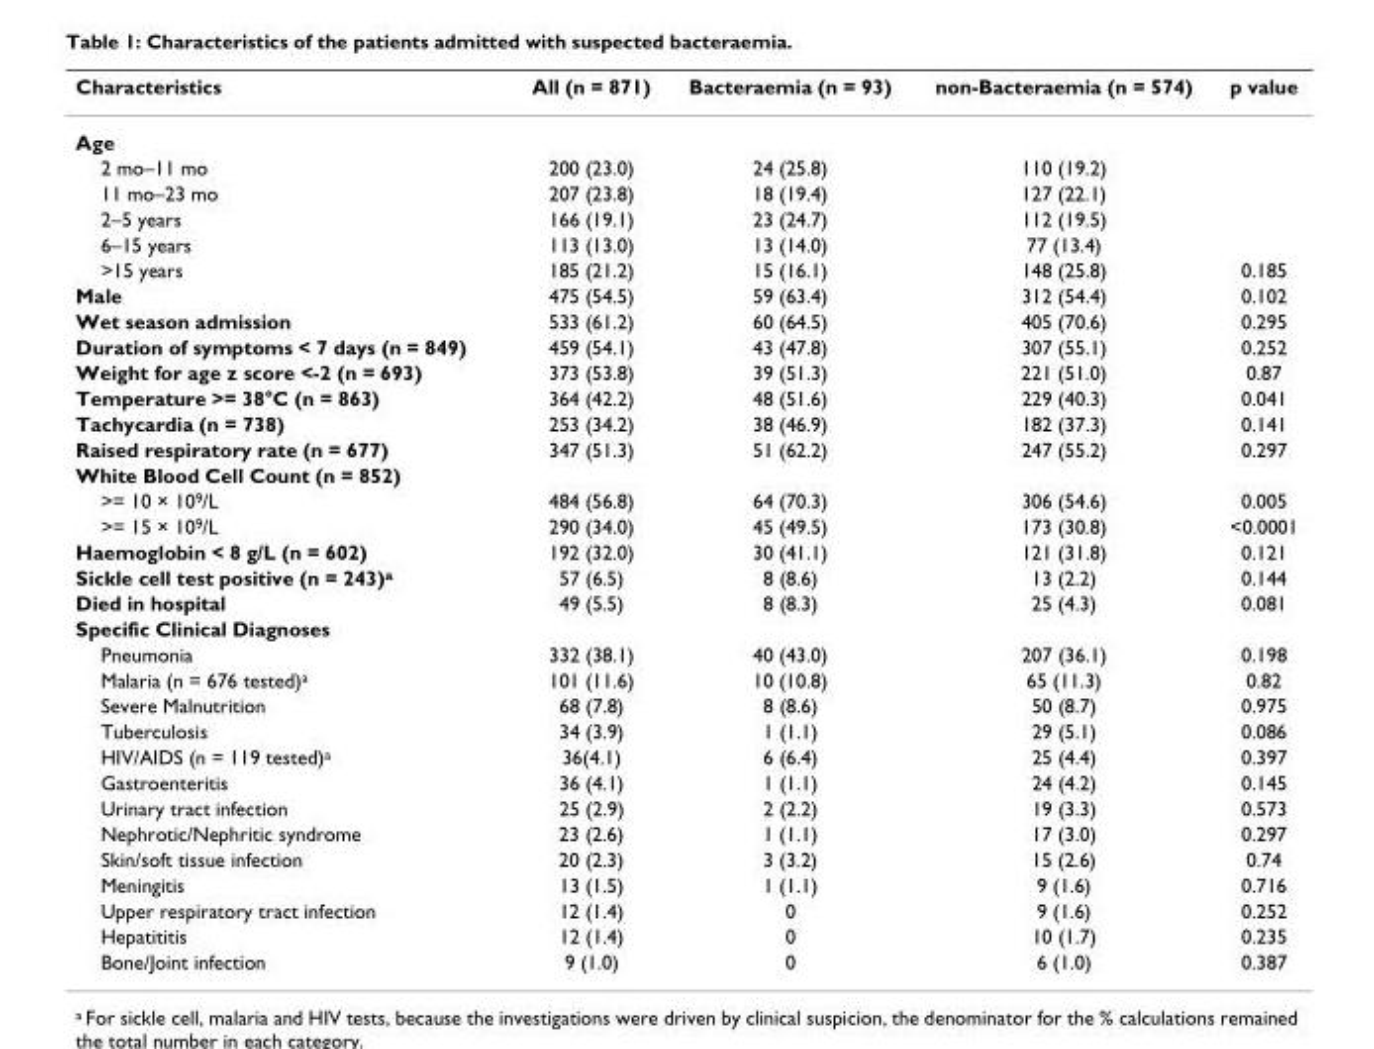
<table><thead><tr><td>Characteristics</td><td>All (n = 871)</td><td>Bacteraemia (n = 93)</td><td>non-Bacteraemia (n = 574)</td><td>p value</td></tr></thead><tbody><tr><td colspan="5">Age</td></tr><tr><td>2 mo–11 mo</td><td>200 (23.0)</td><td>24 (25.8)</td><td>110 (19.2)</td><td></td></tr><tr><td>11 mo–23 mo</td><td>207 (23.8)</td><td>18 (19.4)</td><td>127 (22.1)</td><td></td></tr><tr><td>2–5 years</td><td>166 (19.1)</td><td>23 (24.7)</td><td>112 (19.5)</td><td></td></tr><tr><td>6–15 years</td><td>113 (13.0)</td><td>13 (14.0)</td><td>77 (13.4)</td><td></td></tr><tr><td>&gt;15 years</td><td>185 (21.2)</td><td>15 (16.1)</td><td>148 (25.8)</td><td>0.185</td></tr><tr><td>Male</td><td>475 (54.5)</td><td>59 (63.4)</td><td>312 (54.4)</td><td>0.102</td></tr><tr><td>Wet season admission</td><td>533 (61.2)</td><td>60 (64.5)</td><td>405 (70.6)</td><td>0.295</td></tr><tr><td>Duration of symptoms &lt; 7 days (n = 849)</td><td>459 (54.1)</td><td>43 (47.8)</td><td>307 (55.1)</td><td>0.252</td></tr><tr><td>Weight for age z score &lt;-2 (n = 693)</td><td>373 (53.8)</td><td>39 (51.3)</td><td>221 (51.0)</td><td>0.87</td></tr><tr><td>Temperature &gt;= 38°C (n = 863)</td><td>364 (42.2)</td><td>48 (51.6)</td><td>229 (40.3)</td><td>0.041</td></tr><tr><td>Tachycardia (n = 738)</td><td>253 (34.2)</td><td>38 (46.9)</td><td>182 (37.3)</td><td>0.141</td></tr><tr><td>Raised respiratory rate (n = 677)</td><td>347 (51.3)</td><td>51 (62.2)</td><td>247 (55.2)</td><td>0.297</td></tr><tr><td colspan="5">White Blood Cell Count (n = 852)</td></tr><tr><td>&gt;= 10 × 10<sup>9</sup>/L</td><td>484 (56.8)</td><td>64 (70.3)</td><td>306 (54.6)</td><td>0.005</td></tr><tr><td>&gt;= 15 × 10<sup>9</sup>/L</td><td>290 (34.0)</td><td>45 (49.5)</td><td>173 (30.8)</td><td>&lt;0.0001</td></tr><tr><td>Haemoglobin &lt; 8 g/L (n = 602)</td><td>192 (32.0)</td><td>30 (41.1)</td><td>121 (31.8)</td><td>0.121</td></tr><tr><td>Sickle cell test positive (n = 243)<sup>a</sup></td><td>57 (6.5)</td><td>8 (8.6)</td><td>13 (2.2)</td><td>0.144</td></tr><tr><td>Died in hospital</td><td>49 (5.5)</td><td>8 (8.3)</td><td>25 (4.3)</td><td>0.081</td></tr><tr><td colspan="5">Specific Clinical Diagnoses</td></tr><tr><td>Pneumonia</td><td>332 (38.1)</td><td>40 (43.0)</td><td>207 (36.1)</td><td>0.198</td></tr><tr><td>Malaria (n = 676 tested)<sup>a</sup></td><td>101 (11.6)</td><td>10 (10.8)</td><td>65 (11.3)</td><td>0.82</td></tr><tr><td>Severe Malnutrition</td><td>68 (7.8)</td><td>8 (8.6)</td><td>50 (8.7)</td><td>0.975</td></tr><tr><td>Tuberculosis</td><td>34 (3.9)</td><td>1 (1.1)</td><td>29 (5.1)</td><td>0.086</td></tr><tr><td>HIV/AIDS (n = 119 tested)<sup>a</sup></td><td>36(4.1)</td><td>6 (6.4)</td><td>25 (4.4)</td><td>0.397</td></tr><tr><td>Gastroenteritis</td><td>36 (4.1)</td><td>1 (1.1)</td><td>24 (4.2)</td><td>0.145</td></tr><tr><td>Urinary tract infection</td><td>25 (2.9)</td><td>2 (2.2)</td><td>19 (3.3)</td><td>0.573</td></tr><tr><td>Nephrotic/Nephritic syndrome</td><td>23 (2.6)</td><td>1 (1.1)</td><td>17 (3.0)</td><td>0.297</td></tr><tr><td>Skin/soft tissue infection</td><td>20 (2.3)</td><td>3 (3.2)</td><td>15 (2.6)</td><td>0.74</td></tr><tr><td>Meningitis</td><td>13 (1.5)</td><td>1 (1.1)</td><td>9 (1.6)</td><td>0.716</td></tr><tr><td>Upper respiratory tract infection</td><td>12 (1.4)</td><td>0</td><td>9 (1.6)</td><td>0.252</td></tr><tr><td>Hepatititis</td><td>12 (1.4)</td><td>0</td><td>10 (1.7)</td><td>0.235</td></tr><tr><td>Bone/Joint infection</td><td>9 (1.0)</td><td>0</td><td>6 (1.0)</td><td>0.387</td></tr></tbody></table>